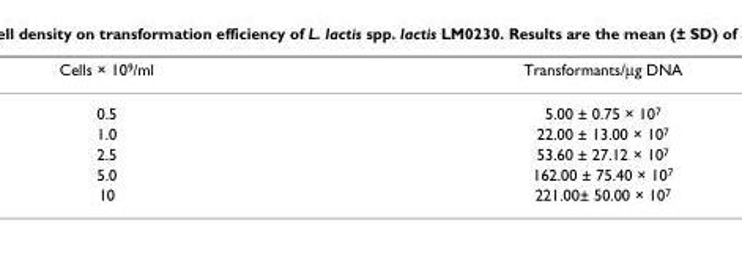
<table><thead><tr><td>Cells × 109/ml</td><td>Transformants/μg DNA</td></tr></thead><tbody><tr><td>0.5</td><td>5.00 ± 0.75 × 107</td></tr><tr><td>1.0</td><td>22.00 ± 13.00 × 107</td></tr><tr><td>2.5</td><td>53.60 ± 27.12 × 107</td></tr><tr><td>5.0</td><td>162.00 ± 75.40 × 107</td></tr><tr><td>10</td><td>221.00± 50.00 × 107</td></tr></tbody></table>